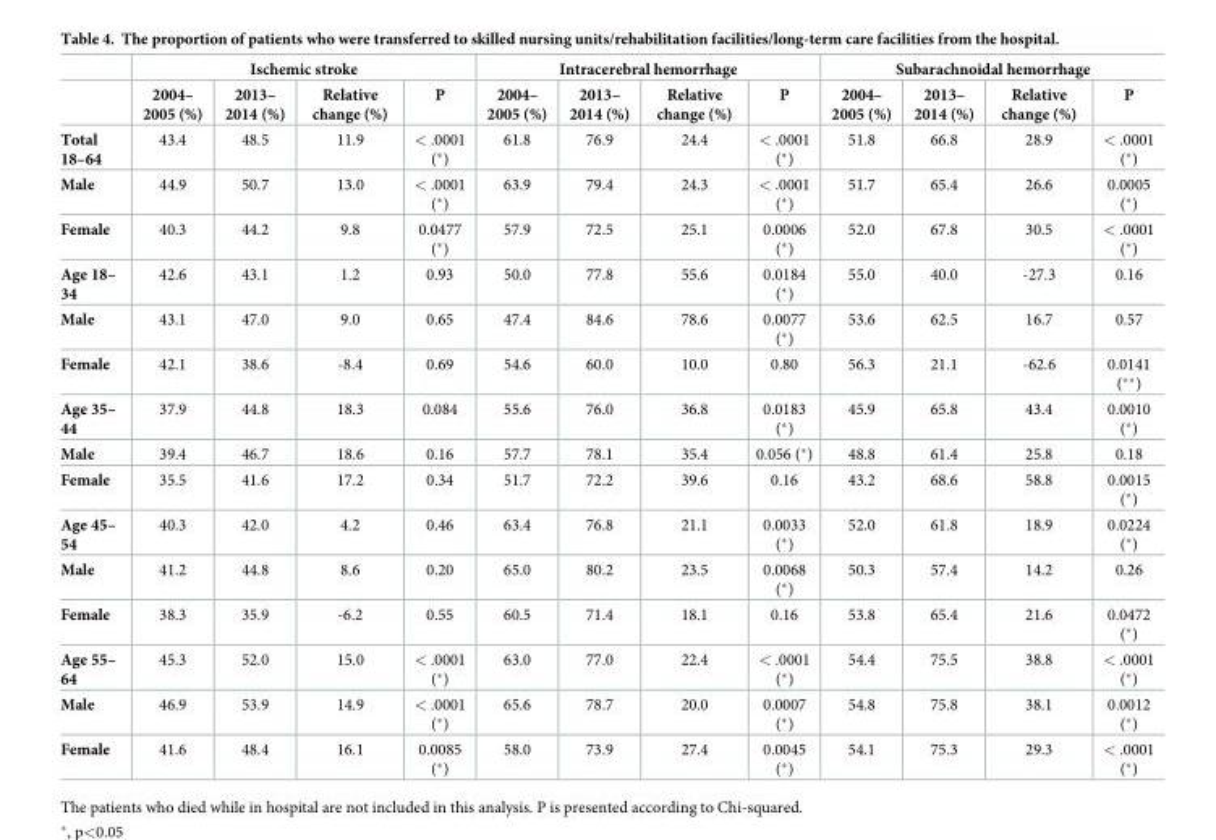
<table><thead><tr><td rowspan="2"></td><td colspan="4">Ischemic stroke</td><td colspan="4">Intracerebral hemorrhage</td><td colspan="4">Subarachnoidal hemorrhage</td></tr><tr><td>2004– 2005 (%)</td><td>2013– 2014 (%)</td><td>Relative change (%)</td><td>P</td><td>2004– 2005 (%)</td><td>2013– 2014 (%)</td><td>Relative change (%)</td><td>P</td><td>2004– 2005 (%)</td><td>2013– 2014 (%)</td><td>Relative change (%)</td><td>P</td></tr></thead><tbody><tr><td>Total 18–64</td><td>43.4</td><td>48.5</td><td>11.9</td><td>&lt; .0001 (*)</td><td>61.8</td><td>76.9</td><td>24.4</td><td>&lt; .0001 (*)</td><td>51.8</td><td>66.8</td><td>28.9</td><td>&lt; .0001 (*)</td></tr><tr><td>Male</td><td>44.9</td><td>50.7</td><td>13.0</td><td>&lt; .0001 (*)</td><td>63.9</td><td>79.4</td><td>24.3</td><td>&lt; .0001 (*)</td><td>51.7</td><td>65.4</td><td>26.6</td><td>0.0005 (*)</td></tr><tr><td>Female</td><td>40.3</td><td>44.2</td><td>9.8</td><td>0.0477 (*)</td><td>57.9</td><td>72.5</td><td>25.1</td><td>0.0006 (*)</td><td>52.0</td><td>67.8</td><td>30.5</td><td>&lt; .0001 (*)</td></tr><tr><td>Age 18– 34</td><td>42.6</td><td>43.1</td><td>1.2</td><td>0.93</td><td>50.0</td><td>77.8</td><td>55.6</td><td>0.0184 (*)</td><td>55.0</td><td>40.0</td><td>-27.3</td><td>0.16</td></tr><tr><td>Male</td><td>43.1</td><td>47.0</td><td>9.0</td><td>0.65</td><td>47.4</td><td>84.6</td><td>78.6</td><td>0.0077 (*)</td><td>53.6</td><td>62.5</td><td>16.7</td><td>0.57</td></tr><tr><td>Female</td><td>42.1</td><td>38.6</td><td>-8.4</td><td>0.69</td><td>54.6</td><td>60.0</td><td>10.0</td><td>0.80</td><td>56.3</td><td>21.1</td><td>-62.6</td><td>0.0141 (**)</td></tr><tr><td>Age 35– 44</td><td>37.9</td><td>44.8</td><td>18.3</td><td>0.084</td><td>55.6</td><td>76.0</td><td>36.8</td><td>0.0183 (*)</td><td>45.9</td><td>65.8</td><td>43.4</td><td>0.0010 (*)</td></tr><tr><td>Male</td><td>39.4</td><td>46.7</td><td>18.6</td><td>0.16</td><td>57.7</td><td>78.1</td><td>35.4</td><td>0.056 (*)</td><td>48.8</td><td>61.4</td><td>25.8</td><td>0.18</td></tr><tr><td>Female</td><td>35.5</td><td>41.6</td><td>17.2</td><td>0.34</td><td>51.7</td><td>72.2</td><td>39.6</td><td>0.16</td><td>43.2</td><td>68.6</td><td>58.8</td><td>0.0015 (*)</td></tr><tr><td>Age 45– 54</td><td>40.3</td><td>42.0</td><td>4.2</td><td>0.46</td><td>63.4</td><td>76.8</td><td>21.1</td><td>0.0033 (*)</td><td>52.0</td><td>61.8</td><td>18.9</td><td>0.0224 (*)</td></tr><tr><td>Male</td><td>41.2</td><td>44.8</td><td>8.6</td><td>0.20</td><td>65.0</td><td>80.2</td><td>23.5</td><td>0.0068 (*)</td><td>50.3</td><td>57.4</td><td>14.2</td><td>0.26</td></tr><tr><td>Female</td><td>38.3</td><td>35.9</td><td>-6.2</td><td>0.55</td><td>60.5</td><td>71.4</td><td>18.1</td><td>0.16</td><td>53.8</td><td>65.4</td><td>21.6</td><td>0.0472 (*)</td></tr><tr><td>Age 55– 64</td><td>45.3</td><td>52.0</td><td>15.0</td><td>&lt; .0001 (*)</td><td>63.0</td><td>77.0</td><td>22.4</td><td>&lt; .0001 (*)</td><td>54.4</td><td>75.5</td><td>38.8</td><td>&lt; .0001 (*)</td></tr><tr><td>Male</td><td>46.9</td><td>53.9</td><td>14.9</td><td>&lt; .0001 (*)</td><td>65.6</td><td>78.7</td><td>20.0</td><td>0.0007 (*)</td><td>54.8</td><td>75.8</td><td>38.1</td><td>0.0012 (*)</td></tr><tr><td>Female</td><td>41.6</td><td>48.4</td><td>16.1</td><td>0.0085 (*)</td><td>58.0</td><td>73.9</td><td>27.4</td><td>0.0045 (*)</td><td>54.1</td><td>75.3</td><td>29.3</td><td>&lt; .0001 (*)</td></tr></tbody></table>